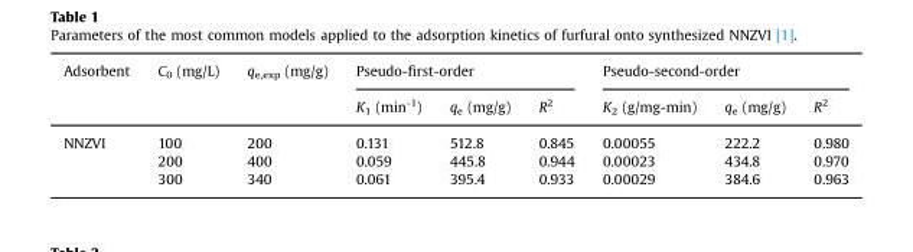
<table><thead><tr><td rowspan="2">Adsorbent</td><td rowspan="2">C<sub>0</sub> (mg/L)</td><td rowspan="2">q<sub>e,exp</sub> (mg/g)</td><td colspan="3">Pseudo-first-order</td><td colspan="3">Pseudo-second-order</td></tr><tr><td>K<sub>1</sub> (min<sup>-1</sup>)</td><td>q<sub>e</sub> (mg/g)</td><td>R<sup>2</sup></td><td>K<sub>2</sub> (g/mg-min)</td><td>q<sub>e</sub> (mg/g)</td><td>R<sup>2</sup></td></tr></thead><tbody><tr><td rowspan="3">NNZVI</td><td>100</td><td>200</td><td>0.131</td><td>512.8</td><td>0.845</td><td>0.00055</td><td>222.2</td><td>0.980</td></tr><tr><td>200</td><td>400</td><td>0.059</td><td>445.8</td><td>0.944</td><td>0.00023</td><td>434.8</td><td>0.970</td></tr><tr><td>300</td><td>340</td><td>0.061</td><td>395.4</td><td>0.933</td><td>0.00029</td><td>384.6</td><td>0.963</td></tr></tbody></table>